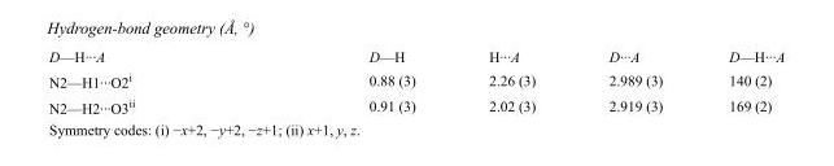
<table><tbody><tr><td>D—H···A</td><td>D—H</td><td>H···A</td><td>D···A</td><td>D—H···A</td></tr><tr><td>N2—H1···O2<sup>i</sup></td><td>0.88 (3)</td><td>2.26 (3)</td><td>2.989 (3)</td><td>140 (2)</td></tr><tr><td>N2—H2···O3<sup>ii</sup></td><td>0.91 (3)</td><td>2.02 (3)</td><td>2.919 (3)</td><td>169 (2)</td></tr></tbody></table>